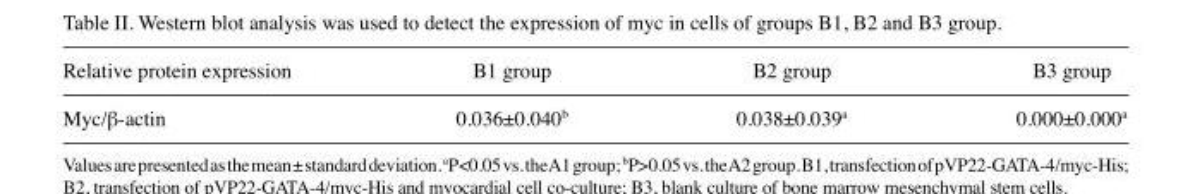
<table><thead><tr><td>Relative protein expression</td><td>B1 group</td><td>B2 group</td><td>B3 group</td></tr></thead><tbody><tr><td>Myc/β‑actin</td><td>0.036±0.040<sup>b</sup></td><td>0.038±0.039<sup>a</sup></td><td>0.000±0.000<sup>a</sup></td></tr></tbody></table>